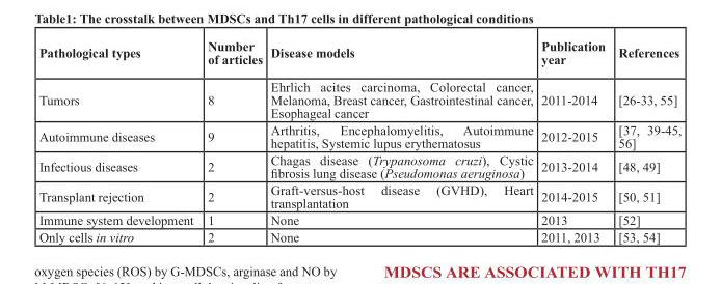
<table><thead><tr><td>pathological types</td><td>number of articles</td><td>disease models</td><td>publication year</td><td>references</td></tr></thead><tbody><tr><td>Tumors</td><td>8</td><td>Ehrlich acites carcinoma, Colorectal cancer, Melanoma, Breast cancer, Gastrointestinal cancer, Esophageal cancer</td><td>2011-2014</td><td>[26-33, 55]</td></tr><tr><td>Autoimmune diseases</td><td>9</td><td>Arthritis, Encephalomyelitis, Autoimmune hepatitis, Systemic lupus erythematosus</td><td>2012-2015</td><td>[37, 39-45, 56]</td></tr><tr><td>Infectious diseases</td><td>2</td><td>Chagas disease (Trypanosoma cruzi), Cystic fibrosis lung disease (Pseudomonas aeruginosa)</td><td>2013-2014</td><td>[48, 49]</td></tr><tr><td>Transplant rejection</td><td>2</td><td>Graft-versus-host disease (GVHD), Heart transplantation</td><td>2014-2015</td><td>[50, 51]</td></tr><tr><td>Immune system development</td><td>1</td><td>None</td><td>2013</td><td>[52]</td></tr><tr><td>Only cells in vitro</td><td>2</td><td>None</td><td>2011, 2013</td><td>[53, 54]</td></tr></tbody></table>